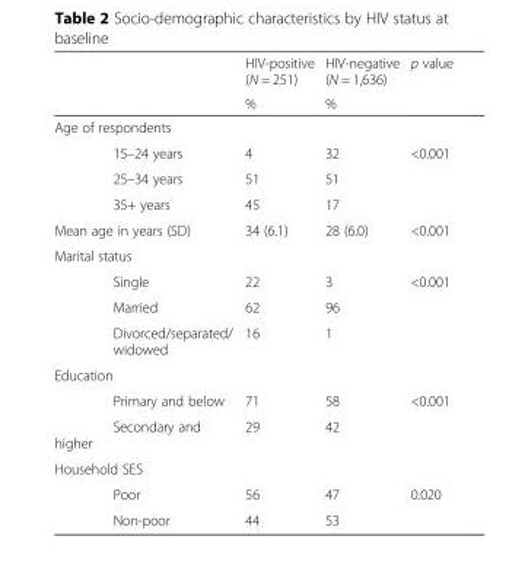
<table><thead><tr><td rowspan="2"></td><td rowspan="2">HIV-positive (N = 251) %</td><td rowspan="2">HIV-negative (N = 1,636) %</td><td rowspan="2">p value</td></tr><tr></tr></thead><tbody><tr><td colspan="4">Age of respondents</td></tr><tr><td>15–24 years</td><td>4</td><td>32</td><td>&lt;0.001</td></tr><tr><td>25–34 years</td><td>51</td><td>51</td><td></td></tr><tr><td>35+ years</td><td>45</td><td>17</td><td></td></tr><tr><td>Mean age in years (SD)</td><td>34 (6.1)</td><td>28 (6.0)</td><td>&lt;0.001</td></tr><tr><td colspan="4">Marital status</td></tr><tr><td>Single</td><td>22</td><td>3</td><td>&lt;0.001</td></tr><tr><td>Married</td><td>62</td><td>96</td><td></td></tr><tr><td>Divorced/separated/ widowed</td><td>16</td><td>1</td><td></td></tr><tr><td colspan="4">Education</td></tr><tr><td>Primary and below</td><td>71</td><td>58</td><td>&lt;0.001</td></tr><tr><td>Secondary and higher</td><td>29</td><td>42</td><td></td></tr><tr><td colspan="4">Household SES</td></tr><tr><td>Poor</td><td>56</td><td>47</td><td>0.020</td></tr><tr><td>Non-poor</td><td>44</td><td>53</td><td></td></tr></tbody></table>